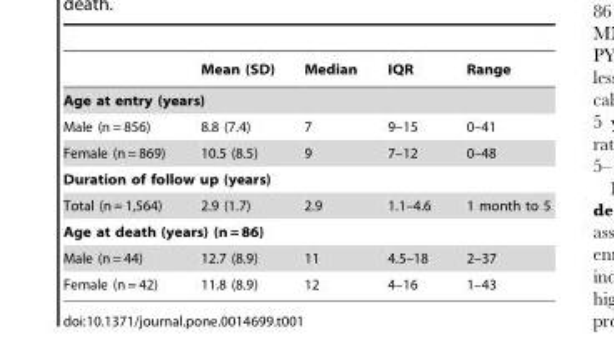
<table><thead><tr><td></td><td>Mean (SD)</td><td>Median</td><td>IQR</td><td>Range</td></tr></thead><tbody><tr><td colspan="5">Age at entry (years)</td></tr><tr><td>Male (n = 856)</td><td>8.8 (7.4)</td><td>7</td><td>9–15</td><td>0–41</td></tr><tr><td>Female (n = 869)</td><td>10.5 (8.5)</td><td>9</td><td>7–12</td><td>0–48</td></tr><tr><td colspan="5">Duration of follow up (years)</td></tr><tr><td>Total (n = 1,564)</td><td>2.9 (1.7)</td><td>2.9</td><td>1.1–4.6</td><td>1 month to 5</td></tr><tr><td colspan="5">Age at death (years) (n = 86)</td></tr><tr><td>Male (n = 44)</td><td>12.7 (8.9)</td><td>11</td><td>4.5–18</td><td>2–37</td></tr><tr><td>Female (n = 42)</td><td>11.8 (8.9)</td><td>12</td><td>4–16</td><td>1–43</td></tr></tbody></table>